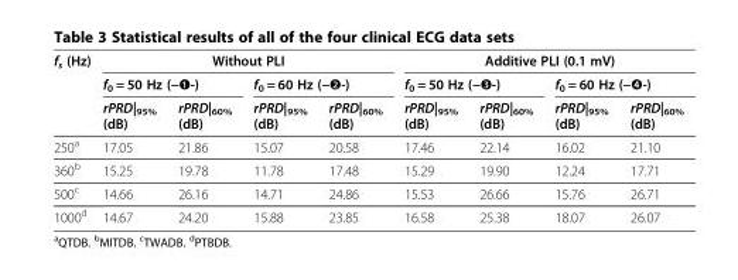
<table><thead><tr><td rowspan="3">f<sub>s</sub> (Hz)</td><td colspan="4">Without PLI</td><td colspan="4">Additive PLI (0.1 mV)</td></tr><tr><td colspan="2">f<sub>0</sub> = 50 Hz (−❶-)</td><td colspan="2">f<sub>0</sub> = 60 Hz (−❷-)</td><td colspan="2">f<sub>0</sub> = 50 Hz (−❸-)</td><td colspan="2">f<sub>0</sub> = 60 Hz (−➍-)</td></tr><tr><td>rPRD|<sub>95%</sub> (dB)</td><td>rPRD|<sub>60%</sub> (dB)</td><td>rPRD|<sub>95%</sub> (dB)</td><td>rPRD|<sub>60%</sub> (dB)</td><td>rPRD|<sub>95%</sub> (dB)</td><td>rPRD|<sub>60%</sub> (dB)</td><td>rPRD|<sub>95%</sub> (dB)</td><td>rPRD|<sub>60%</sub> (dB)</td></tr></thead><tbody><tr><td>250<sup>a</sup></td><td>17.05</td><td>21.86</td><td>15.07</td><td>20.58</td><td>17.46</td><td>22.14</td><td>16.02</td><td>21.10</td></tr><tr><td>360<sup>b</sup></td><td>15.25</td><td>19.78</td><td>11.78</td><td>17.48</td><td>15.29</td><td>19.90</td><td>12.24</td><td>17.71</td></tr><tr><td>500<sup>c</sup></td><td>14.66</td><td>26.16</td><td>14.71</td><td>24.86</td><td>15.53</td><td>26.66</td><td>15.76</td><td>26.71</td></tr><tr><td>1000<sup>d</sup></td><td>14.67</td><td>24.20</td><td>15.88</td><td>23.85</td><td>16.58</td><td>25.38</td><td>18.07</td><td>26.07</td></tr></tbody></table>